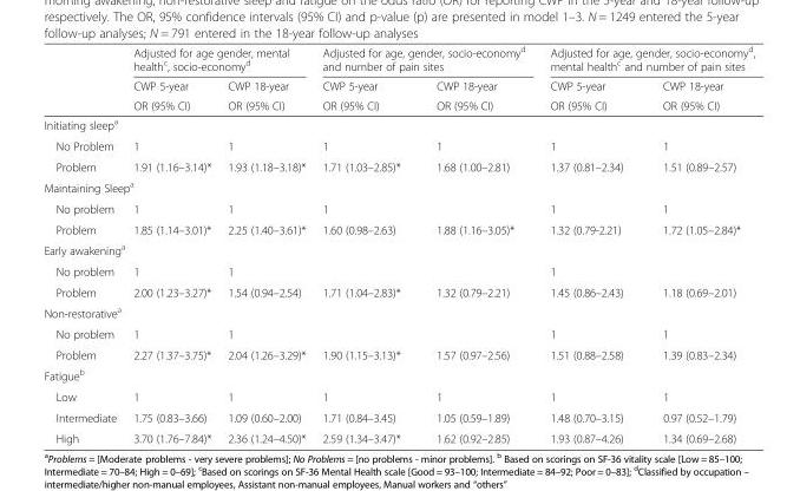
<table><thead><tr><td rowspan="3"></td><td colspan="2">Adjusted for age gender, mental health<sup>c</sup>, socio-economy<sup>d</sup></td><td colspan="2">Adjusted for age, gender, socio-economy<sup>d</sup> and number of pain sites</td><td colspan="2">Adjusted for age, gender, socio-economy<sup>d</sup>, mental health<sup>c</sup> and number of pain sites</td></tr><tr><td rowspan="2">CWP 5-year OR (95% CI)</td><td rowspan="2">CWP 18-year OR (95% CI)</td><td rowspan="2">CWP 5-year OR (95% CI)</td><td rowspan="2">CWP 18-year OR (95% CI)</td><td rowspan="2">CWP 5-year OR (95% CI)</td><td rowspan="2">CWP 18-year OR (95% CI)</td></tr><tr></tr></thead><tbody><tr><td colspan="7">Initiating sleep<sup>a</sup></td></tr><tr><td>No Problem</td><td>1</td><td>1</td><td>1</td><td>1</td><td>1</td><td>1</td></tr><tr><td>Problem</td><td>1.91 (1.16–3.14)*</td><td>1.93 (1.18–3.18)*</td><td>1.71 (1.03–2.85)*</td><td>1.68 (1.00–2.81)</td><td>1.37 (0.81–2.34)</td><td>1.51 (0.89–2.57)</td></tr><tr><td colspan="7">Maintaining Sleep<sup>a</sup></td></tr><tr><td>No problem</td><td>1</td><td>1</td><td>1</td><td></td><td>1</td><td>1</td></tr><tr><td>Problem</td><td>1.85 (1.14–3.01)*</td><td>2.25 (1.40–3.61)*</td><td>1.60 (0.98–2.63)</td><td>1.88 (1.16–3.05)*</td><td>1.32 (0.79-2.21)</td><td>1.72 (1.05–2.84)*</td></tr><tr><td colspan="7">Early awakening<sup>a</sup></td></tr><tr><td>No problem</td><td>1</td><td>1</td><td></td><td></td><td>1</td><td></td></tr><tr><td>Problem</td><td>2.00 (1.23–3.27)*</td><td>1.54 (0.94–2.54)</td><td>1.71 (1.04–2.83)*</td><td>1.32 (0.79–2.21)</td><td>1.45 (0.86–2.43)</td><td>1.18 (0.69–2.01)</td></tr><tr><td colspan="7">Non-restorative<sup>a</sup></td></tr><tr><td>No problem</td><td>1</td><td>1</td><td></td><td></td><td>1</td><td>1</td></tr><tr><td>Problem</td><td>2.27 (1.37–3.75)*</td><td>2.04 (1.26–3.29)*</td><td>1.90 (1.15–3.13)*</td><td>1.57 (0.97–2.56)</td><td>1.51 (0.88–2.58)</td><td>1.39 (0.83–2.34)</td></tr><tr><td colspan="7">Fatigue<sup>b</sup></td></tr><tr><td>Low</td><td>1</td><td>1</td><td>1</td><td>1</td><td>1</td><td>1</td></tr><tr><td>Intermediate</td><td>1.75 (0.83–3.66)</td><td>1.09 (0.60–2.00)</td><td>1.71 (0.84–3.45)</td><td>1.05 (0.59–1.89)</td><td>1.48 (0.70–3.15)</td><td>0.97 (0.52–1.79)</td></tr><tr><td>High</td><td>3.70 (1.76–7.84)*</td><td>2.36 (1.24–4.50)*</td><td>2.59 (1.34–3.47)*</td><td>1.62 (0.92–2.85)</td><td>1.93 (0.87–4.26)</td><td>1.34 (0.69–2.68)</td></tr></tbody></table>